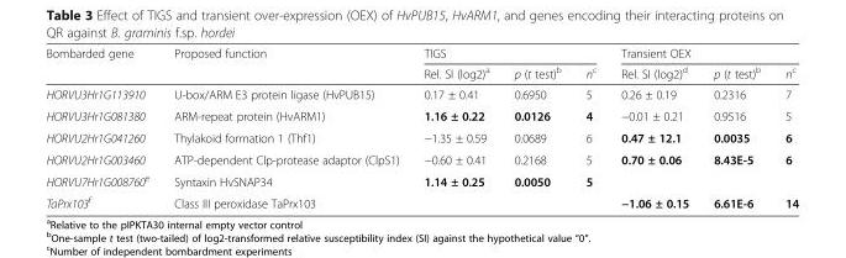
<table><thead><tr><td rowspan="2">Bombarded gene</td><td rowspan="2">Proposed function</td><td colspan="3">TIGS</td><td colspan="3">Transient OEX</td></tr><tr><td>Rel. SI (log2)<sup>a</sup></td><td>p (t test)<sup>b</sup></td><td>n<sup>c</sup></td><td>Rel. SI (log2)<sup>d</sup></td><td>p (t test)<sup>b</sup></td><td>n<sup>c</sup></td></tr></thead><tbody><tr><td>HORVU3Hr1G113910</td><td>U-box/ARM E3 protein ligase (HvPUB15)</td><td>0.17 ± 0.41</td><td>0.6950</td><td>5</td><td>0.26 ± 0.19</td><td>0.2316</td><td>7</td></tr><tr><td>HORVU3Hr1G081380</td><td>ARM-repeat protein (HvARM1)</td><td>1.16 ± 0.22</td><td>0.0126</td><td>4</td><td>−0.01 ± 0.21</td><td>0.9516</td><td>5</td></tr><tr><td>HORVU2Hr1G041260</td><td>Thylakoid formation 1 (Thf1)</td><td>−1.35 ± 0.59</td><td>0.0689</td><td>6</td><td>0.47 ± 12.1</td><td>0.0035</td><td>6</td></tr><tr><td>HORVU2Hr1G003460</td><td>ATP-dependent Clp-protease adaptor (ClpS1)</td><td>−0.60 ± 0.41</td><td>0.2168</td><td>5</td><td>0.70 ± 0.06</td><td>8.43E-5</td><td>6</td></tr><tr><td>HORVU7Hr1G008760<sup>e</sup></td><td>Syntaxin HvSNAP34</td><td>1.14 ± 0.25</td><td>0.0050</td><td>5</td><td></td><td></td><td></td></tr><tr><td>TaPrx103<sup>f</sup></td><td>Class III peroxidase TaPrx103</td><td></td><td></td><td></td><td>−1.06 ± 0.15</td><td>6.61E-6</td><td>14</td></tr></tbody></table>